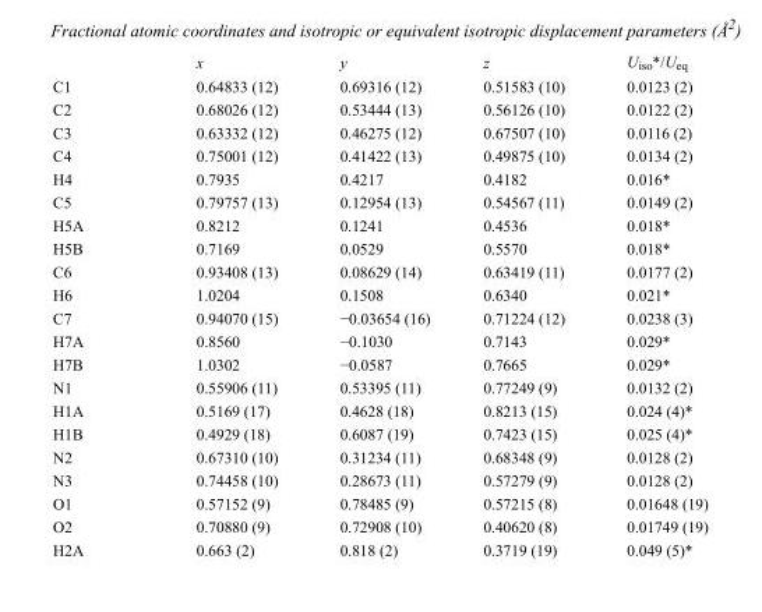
<table><thead><tr><td></td><td>x</td><td>y</td><td>z</td><td>U<sub>iso</sub>*/U<sub>eq</sub></td></tr></thead><tbody><tr><td>C1</td><td>0.64833 (12)</td><td>0.69316 (12)</td><td>0.51583 (10)</td><td>0.0123 (2)</td></tr><tr><td>C2</td><td>0.68026 (12)</td><td>0.53444 (13)</td><td>0.56126 (10)</td><td>0.0122 (2)</td></tr><tr><td>C3</td><td>0.63332 (12)</td><td>0.46275 (12)</td><td>0.67507 (10)</td><td>0.0116 (2)</td></tr><tr><td>C4</td><td>0.75001 (12)</td><td>0.41422 (13)</td><td>0.49875 (10)</td><td>0.0134 (2)</td></tr><tr><td>H4</td><td>0.7935</td><td>0.4217</td><td>0.4182</td><td>0.016*</td></tr><tr><td>C5</td><td>0.79757 (13)</td><td>0.12954 (13)</td><td>0.54567 (11)</td><td>0.0149 (2)</td></tr><tr><td>H5A</td><td>0.8212</td><td>0.1241</td><td>0.4536</td><td>0.018*</td></tr><tr><td>H5B</td><td>0.7169</td><td>0.0529</td><td>0.5570</td><td>0.018*</td></tr><tr><td>C6</td><td>0.93408 (13)</td><td>0.08629 (14)</td><td>0.63419 (11)</td><td>0.0177 (2)</td></tr><tr><td>H6</td><td>1.0204</td><td>0.1508</td><td>0.6340</td><td>0.021*</td></tr><tr><td>C7</td><td>0.94070 (15)</td><td>−0.03654 (16)</td><td>0.71224 (12)</td><td>0.0238 (3)</td></tr><tr><td>H7A</td><td>0.8560</td><td>−0.1030</td><td>0.7143</td><td>0.029*</td></tr><tr><td>H7B</td><td>1.0302</td><td>−0.0587</td><td>0.7665</td><td>0.029*</td></tr><tr><td>N1</td><td>0.55906 (11)</td><td>0.53395 (11)</td><td>0.77249 (9)</td><td>0.0132 (2)</td></tr><tr><td>H1A</td><td>0.5169 (17)</td><td>0.4628 (18)</td><td>0.8213 (15)</td><td>0.024 (4)*</td></tr><tr><td>H1B</td><td>0.4929 (18)</td><td>0.6087 (19)</td><td>0.7423 (15)</td><td>0.025 (4)*</td></tr><tr><td>N2</td><td>0.67310 (10)</td><td>0.31234 (11)</td><td>0.68348 (9)</td><td>0.0128 (2)</td></tr><tr><td>N3</td><td>0.74458 (10)</td><td>0.28673 (11)</td><td>0.57279 (9)</td><td>0.0128 (2)</td></tr><tr><td>O1</td><td>0.57152 (9)</td><td>0.78485 (9)</td><td>0.57215 (8)</td><td>0.01648 (19)</td></tr><tr><td>O2</td><td>0.70880 (9)</td><td>0.72908 (10)</td><td>0.40620 (8)</td><td>0.01749 (19)</td></tr><tr><td>H2A</td><td>0.663 (2)</td><td>0.818 (2)</td><td>0.3719 (19)</td><td>0.049 (5)*</td></tr></tbody></table>